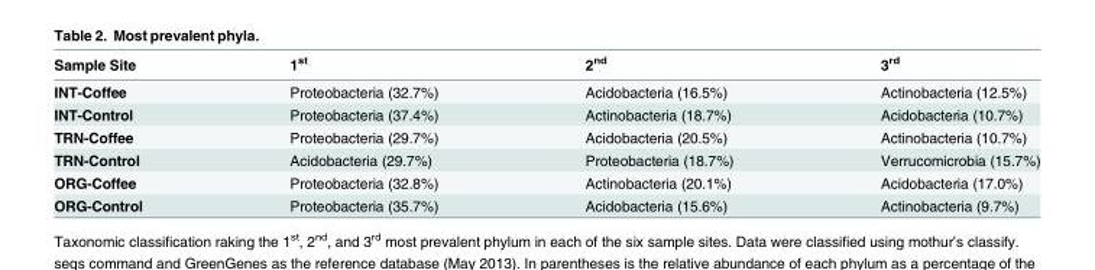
<table><thead><tr><td>Sample Site</td><td>1<sup>st</sup></td><td>2<sup>nd</sup></td><td>3<sup>rd</sup></td></tr></thead><tbody><tr><td>INT-Coffee</td><td>Proteobacteria (32.7%)</td><td>Acidobacteria (16.5%)</td><td>Actinobacteria (12.5%)</td></tr><tr><td>INT-Control</td><td>Proteobacteria (37.4%)</td><td>Actinobacteria (18.7%)</td><td>Acidobacteria (10.7%)</td></tr><tr><td>TRN-Coffee</td><td>Proteobacteria (29.7%)</td><td>Acidobacteria (20.5%)</td><td>Actinobacteria (10.7%)</td></tr><tr><td>TRN-Control</td><td>Acidobacteria (29.7%)</td><td>Proteobacteria (18.7%)</td><td>Verrucomicrobia (15.7%)</td></tr><tr><td>ORG-Coffee</td><td>Proteobacteria (32.8%)</td><td>Actinobacteria (20.1%)</td><td>Acidobacteria (17.0%)</td></tr><tr><td>ORG-Control</td><td>Proteobacteria (35.7%)</td><td>Acidobacteria (15.6%)</td><td>Actinobacteria (9.7%)</td></tr></tbody></table>